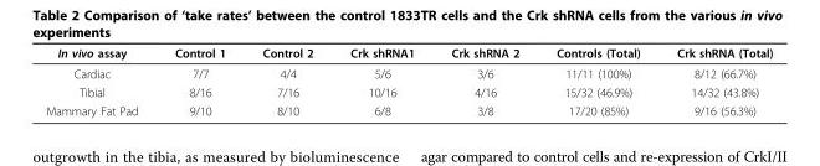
<table><thead><tr><td>In vivo assay</td><td>Control 1</td><td>Control 2</td><td>Crk shRNA1</td><td>Crk shRNA 2</td><td>Controls (Total)</td><td>Crk shRNA (Total)</td></tr></thead><tbody><tr><td>Cardiac</td><td>7/7</td><td>4/4</td><td>5/6</td><td>3/6</td><td>11/11 (100%)</td><td>8/12 (66.7%)</td></tr><tr><td>Tibial</td><td>8/16</td><td>7/16</td><td>10/16</td><td>4/16</td><td>15/32 (46.9%)</td><td>14/32 (43.8%)</td></tr><tr><td>Mammary Fat Pad</td><td>9/10</td><td>8/10</td><td>6/8</td><td>3/8</td><td>17/20 (85%)</td><td>9/16 (56.3%)</td></tr></tbody></table>